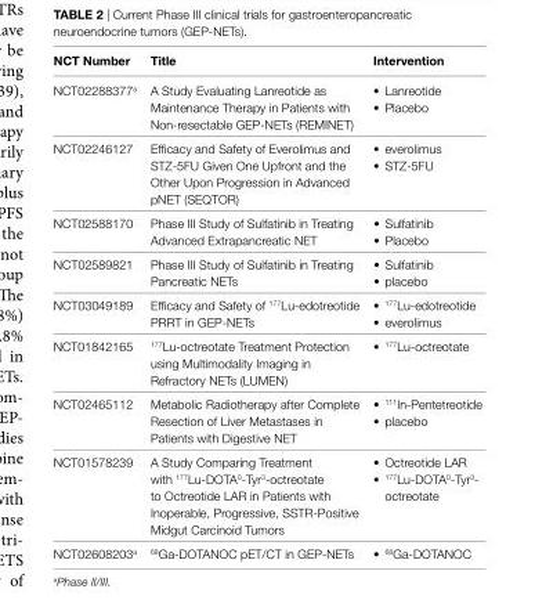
<table><thead><tr><td>NCT Number</td><td>Title</td><td>intervention</td></tr></thead><tbody><tr><td>NCT02288377<sup>a</sup></td><td>A Study Evaluating Lanreotide as Maintenance Therapy in Patients with Non-resectable GEP-NETs (REMINET)</td><td>• Lanreotide • Placebo</td></tr><tr><td>NCT02246127</td><td>Efficacy and Safety of Everolimus and STZ-5FU Given One Upfront and the Other Upon Progression in Advanced pNET (SEQTOR)</td><td>• everolimus • STZ-5FU</td></tr><tr><td>NCT02588170</td><td>Phase III Study of Sulfatinib in Treating Advanced Extrapancreatic NET</td><td>• Sulfatinib • Placebo</td></tr><tr><td>NCT02589821</td><td>Phase III Study of Sulfatinib in Treating Pancreatic NETs</td><td>• Sulfatinib • placebo</td></tr><tr><td>NCT03049189</td><td>Efficacy and Safety of <sup>177</sup>Lu-edotreotide PRRT in GEP-NETs</td><td>• 177Lu-edotreotide • everolimus</td></tr><tr><td>NCT01842165</td><td><sup>177</sup>Lu-octreotate Treatment Protection using Multimodality Imaging in Refractory NETs (LUMEN)</td><td>• 177Lu-octreotate</td></tr><tr><td>NCT02465112</td><td>Metabolic Radiotherapy after Complete Resection of Liver Metastases in Patients with Digestive NET</td><td>• 111In-Pentetreotide • placebo</td></tr><tr><td>NCT01578239</td><td>A Study Comparing Treatment with <sup>177</sup>Lu-DOTA<sup>0</sup>-Tyr<sup>3</sup>-octreotate to Octreotide LAR in Patients with Inoperable, Progressive, SSTR-Positive Midgut Carcinoid Tumors</td><td>• Octreotide LAR • 177Lu-DOTA0-Tyr3- octreotate</td></tr><tr><td>NCT02608203<sup>a</sup></td><td><sup>68</sup>Ga-DOTANOC pET/CT in GEP-NETs</td><td>• 68Ga-DOTANOC</td></tr></tbody></table>